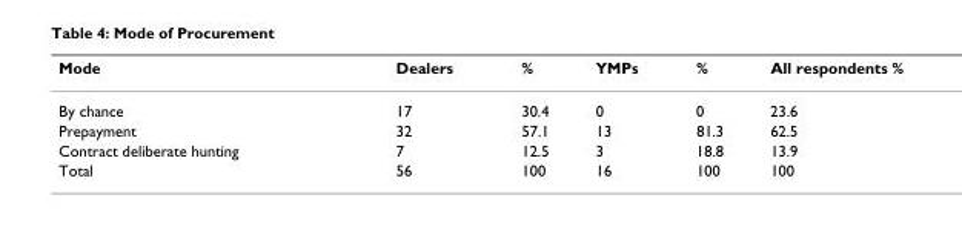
<table><thead><tr><td>Mode</td><td>Dealers</td><td>%</td><td>YMPs</td><td>%</td><td>All respondents %</td></tr></thead><tbody><tr><td>By chance</td><td>17</td><td>30.4</td><td>0</td><td>0</td><td>23.6</td></tr><tr><td>Prepayment</td><td>32</td><td>57.1</td><td>13</td><td>81.3</td><td>62.5</td></tr><tr><td>Contract deliberate hunting</td><td>7</td><td>12.5</td><td>3</td><td>18.8</td><td>13.9</td></tr><tr><td>Total</td><td>56</td><td>100</td><td>16</td><td>100</td><td>100</td></tr></tbody></table>